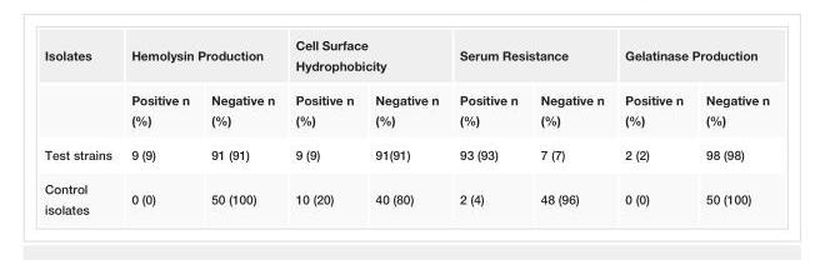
<table><tbody><tr><td rowspan="2">Isolates</td><td colspan="2">Hemolysin Production</td><td colspan="2">Cell Surface Hydrophobicity</td><td colspan="2">Serum Resistance</td><td colspan="2">Gelatinase Production</td></tr><tr><td>Positive n (%)</td><td>Negative n (%)</td><td>Positive n (%)</td><td>Negative n (%)</td><td>Positive n (%)</td><td>Negative n (%)</td><td>Positive n (%)</td><td>Negative n (%)</td></tr><tr><td>Test strains</td><td>9 (9)</td><td>91 (91)</td><td>9 (9)</td><td>91(91)</td><td>93 (93)</td><td>7 (7)</td><td>2 (2)</td><td>98 (98)</td></tr><tr><td>Control isolates</td><td>0 (0)</td><td>50 (100)</td><td>10 (20)</td><td>40 (80)</td><td>2 (4)</td><td>48 (96)</td><td>0 (0)</td><td>50 (100)</td></tr></tbody></table>